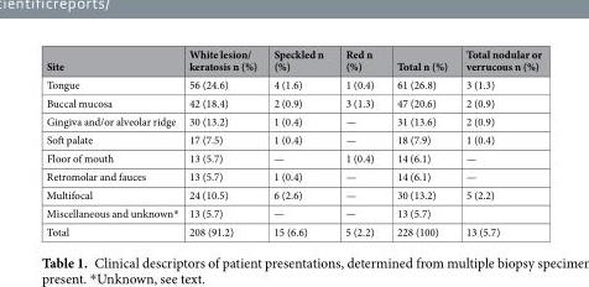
<table><thead><tr><td>Site</td><td>White lesion/ keratosis n (%)</td><td>Speckled n (%)</td><td>Red n (%)</td><td>Total n (%)</td><td>Total nodular or verrucous n (%)</td></tr></thead><tbody><tr><td>Tongue</td><td>56 (24.6)</td><td>4 (1.6)</td><td>1 (0.4)</td><td>61 (26.8)</td><td>3 (1.3)</td></tr><tr><td>Buccal mucosa</td><td>42 (18.4)</td><td>2 (0.9)</td><td>3 (1.3)</td><td>47 (20.6)</td><td>2 (0.9)</td></tr><tr><td>Gingiva and/or alveolar ridge</td><td>30 (13.2)</td><td>1 (0.4)</td><td>—</td><td>31 (13.6)</td><td>2 (0.9)</td></tr><tr><td>Soft palate</td><td>17 (7.5)</td><td>1 (0.4)</td><td>—</td><td>18 (7.9)</td><td>1 (0.4)</td></tr><tr><td>Floor of mouth</td><td>13 (5.7)</td><td>—</td><td>1 (0.4)</td><td>14 (6.1)</td><td>—</td></tr><tr><td>Retromolar and fauces</td><td>13 (5.7)</td><td>1 (0.4)</td><td>—</td><td>14 (6.1)</td><td>—</td></tr><tr><td>Multifocal</td><td>24 (10.5)</td><td>6 (2.6)</td><td>—</td><td>30 (13.2)</td><td>5 (2.2)</td></tr><tr><td>Miscellaneous and unknown*</td><td>13 (5.7)</td><td>—</td><td>—</td><td>13 (5.7)</td><td></td></tr><tr><td>Total</td><td>208 (91.2)</td><td>15 (6.6)</td><td>5 (2.2)</td><td>228 (100)</td><td>13 (5.7)</td></tr></tbody></table>